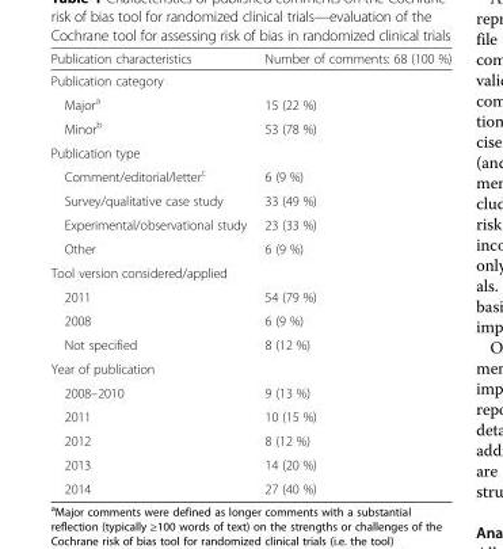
<table><thead><tr><td>Publication characteristics</td><td>Number of comments: 68 (100 %)</td></tr></thead><tbody><tr><td colspan="2">Publication category</td></tr><tr><td>Major<sup>a</sup></td><td>15 (22 %)</td></tr><tr><td>Minor<sup>b</sup></td><td>53 (78 %)</td></tr><tr><td colspan="2">Publication type</td></tr><tr><td>Comment/editorial/letter<sup>c</sup></td><td>6 (9 %)</td></tr><tr><td>Survey/qualitative case study</td><td>33 (49 %)</td></tr><tr><td>Experimental/observational study</td><td>23 (33 %)</td></tr><tr><td>Other</td><td>6 (9 %)</td></tr><tr><td colspan="2">Tool version considered/applied</td></tr><tr><td>2011</td><td>54 (79 %)</td></tr><tr><td>2008</td><td>6 (9 %)</td></tr><tr><td>Not specified</td><td>8 (12 %)</td></tr><tr><td colspan="2">Year of publication</td></tr><tr><td>2008–2010</td><td>9 (13 %)</td></tr><tr><td>2011</td><td>10 (15 %)</td></tr><tr><td>2012</td><td>8 (12 %)</td></tr><tr><td>2013</td><td>14 (20 %)</td></tr><tr><td>2014</td><td>27 (40 %)</td></tr></tbody></table>